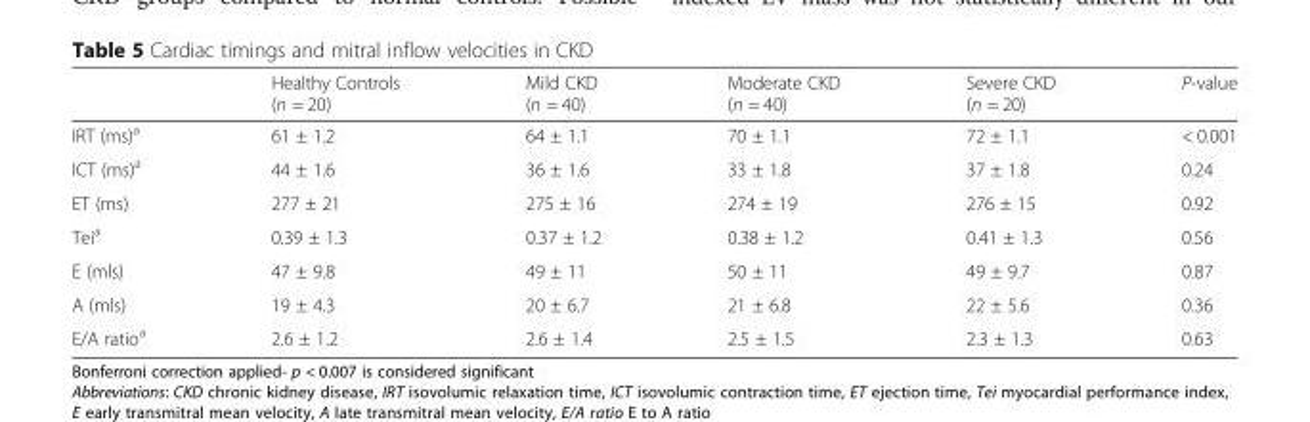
<table><thead><tr><td></td><td>Healthy Controls (n = 20)</td><td>Mild CKD (n = 40)</td><td>Moderate CKD (n = 40)</td><td>Severe CKD (n = 20)</td><td>P-value</td></tr></thead><tbody><tr><td>IRT (ms)<sup>a</sup></td><td>61 ± 1.2</td><td>64 ± 1.1</td><td>70 ± 1.1</td><td>72 ± 1.1</td><td>&lt; 0.001</td></tr><tr><td>ICT (ms)<sup>a</sup></td><td>44 ± 1.6</td><td>36 ± 1.6</td><td>33 ± 1.8</td><td>37 ± 1.8</td><td>0.24</td></tr><tr><td>ET (ms)</td><td>277 ± 21</td><td>275 ± 16</td><td>274 ± 19</td><td>276 ± 15</td><td>0.92</td></tr><tr><td>Tei<sup>a</sup></td><td>0.39 ± 1.3</td><td>0.37 ± 1.2</td><td>0.38 ± 1.2</td><td>0.41 ± 1.3</td><td>0.56</td></tr><tr><td>E (mls)</td><td>47 ± 9.8</td><td>49 ± 11</td><td>50 ± 11</td><td>49 ± 9.7</td><td>0.87</td></tr><tr><td>A (mls)</td><td>19 ± 4.3</td><td>20 ± 6.7</td><td>21 ± 6.8</td><td>22 ± 5.6</td><td>0.36</td></tr><tr><td>E/A ratio<sup>a</sup></td><td>2.6 ± 1.2</td><td>2.6 ± 1.4</td><td>2.5 ± 1.5</td><td>2.3 ± 1.3</td><td>0.63</td></tr></tbody></table>